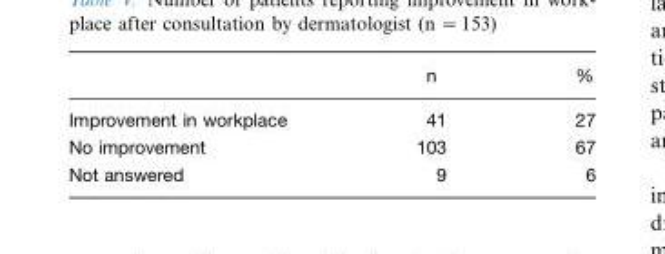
<table><thead><tr><td></td><td>n</td><td>%</td></tr></thead><tbody><tr><td>Improvement in workplace</td><td>41</td><td>27</td></tr><tr><td>No improvement</td><td>103</td><td>67</td></tr><tr><td>Not answered</td><td>9</td><td>6</td></tr></tbody></table>